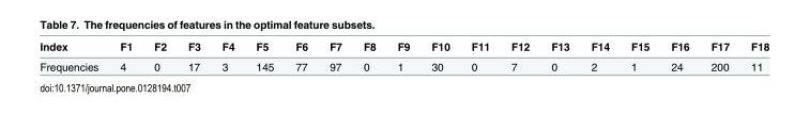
<table><thead><tr><td>Index</td><td>F1</td><td>F2</td><td>F3</td><td>F4</td><td>F5</td><td>F6</td><td>F7</td><td>F8</td><td>F9</td><td>F10</td><td>F11</td><td>F12</td><td>F13</td><td>F14</td><td>F15</td><td>F16</td><td>F17</td><td>F18</td></tr></thead><tbody><tr><td>Frequencies</td><td>4</td><td>0</td><td>17</td><td>3</td><td>145</td><td>77</td><td>97</td><td>0</td><td>1</td><td>30</td><td>0</td><td>7</td><td>0</td><td>2</td><td>1</td><td>24</td><td>200</td><td>11</td></tr></tbody></table>